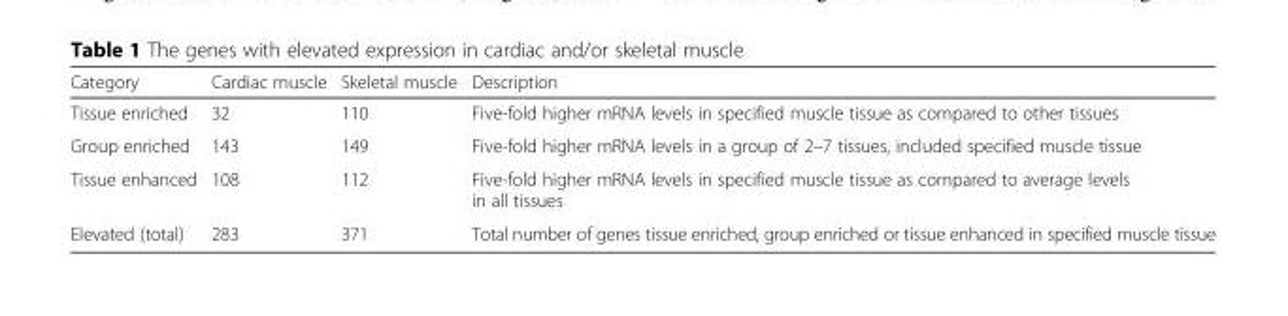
<table><thead><tr><td>Category</td><td>Cardiac muscle</td><td>Skeletal muscle</td><td>Description</td></tr></thead><tbody><tr><td>Tissue enriched</td><td>32</td><td>110</td><td>Five-fold higher mRNA levels in specified muscle tissue as compared to other tissues</td></tr><tr><td>Group enriched</td><td>143</td><td>149</td><td>Five-fold higher mRNA levels in a group of 2–7 tissues, included specified muscle tissue</td></tr><tr><td>Tissue enhanced</td><td>108</td><td>112</td><td>Five-fold higher mRNA levels in specified muscle tissue as compared to average levels in all tissues</td></tr><tr><td>Elevated (total)</td><td>283</td><td>371</td><td>Total number of genes tissue enriched, group enriched or tissue enhanced in specified muscle tissue</td></tr></tbody></table>